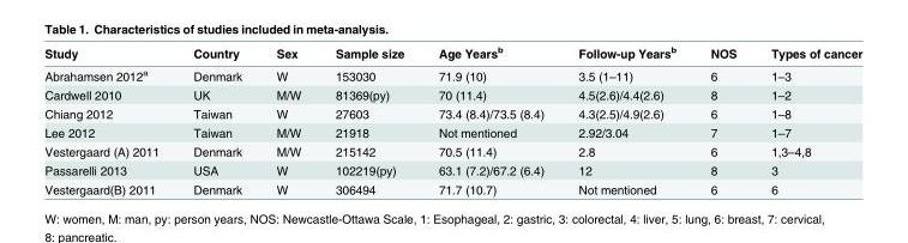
<table><thead><tr><td>Study</td><td>Country</td><td>Sex</td><td>Sample size</td><td>Age Years<sup>b</sup></td><td>Follow-up Years<sup>b</sup></td><td>NOS</td><td>Types of cancer</td></tr></thead><tbody><tr><td>Abrahamsen 2012<sup>a</sup></td><td>Denmark</td><td>W</td><td>153030</td><td>71.9 (10)</td><td>3.5 (1–11)</td><td>6</td><td>1–3</td></tr><tr><td>Cardwell 2010</td><td>UK</td><td>M/W</td><td>81369(py)</td><td>70 (11.4)</td><td>4.5(2.6)/4.4(2.6)</td><td>8</td><td>1–2</td></tr><tr><td>Chiang 2012</td><td>Taiwan</td><td>W</td><td>27603</td><td>73.4 (8.4)/73.5 (8.4)</td><td>4.3(2.5)/4.9(2.6)</td><td>6</td><td>1–8</td></tr><tr><td>Lee 2012</td><td>Taiwan</td><td>M/W</td><td>21918</td><td>Not mentioned</td><td>2.92/3.04</td><td>7</td><td>1–7</td></tr><tr><td>Vestergaard (A) 2011</td><td>Denmark</td><td>M/W</td><td>215142</td><td>70.5 (11.4)</td><td>2.8</td><td>6</td><td>1、3–4、8</td></tr><tr><td>Passarelli 2013</td><td>USA</td><td>W</td><td>102219(py)</td><td>63.1 (7.2)/67.2 (6.4)</td><td>12</td><td>8</td><td>3</td></tr><tr><td>Vestergaard(B) 2011</td><td>Denmark</td><td>W</td><td>306494</td><td>71.7 (10.7)</td><td>Not mentioned</td><td>6</td><td>6</td></tr></tbody></table>